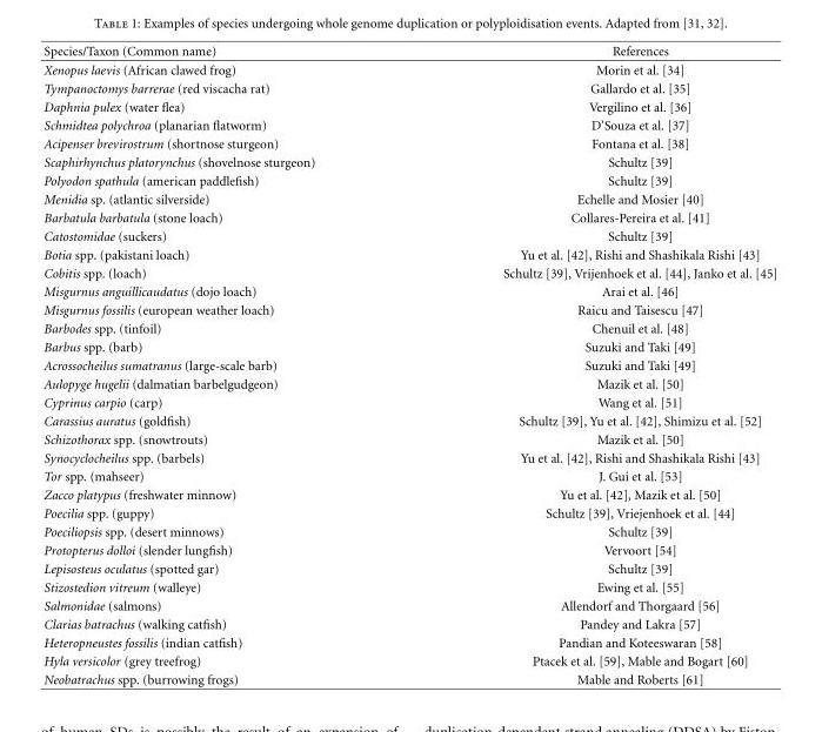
<table><thead><tr><td>Species/Taxon (Common name)</td><td>References</td></tr></thead><tbody><tr><td>Xenopus laevis (African clawed frog)</td><td>Morin et al. [34]</td></tr><tr><td>Tympanoctomys barrerae (red viscacha rat)</td><td>Gallardo et al. [35]</td></tr><tr><td>Daphnia pulex (water flea)</td><td>Vergilino et al. [36]</td></tr><tr><td>Schmidtea polychroa (planarian flatworm)</td><td>D’Souza et al. [37]</td></tr><tr><td>Acipenser brevirostrum (shortnose sturgeon)</td><td>Fontana et al. [38]</td></tr><tr><td>Scaphirhynchus platorynchus (shovelnose sturgeon)</td><td>Schultz [39]</td></tr><tr><td>Polyodon spathula (american paddlefish)</td><td>Schultz [39]</td></tr><tr><td>Menidia sp. (atlantic silverside)</td><td>Echelle and Mosier [40]</td></tr><tr><td>Barbatula barbatula (stone loach)</td><td>Collares-Pereira et al. [41]</td></tr><tr><td>Catostomidae (suckers)</td><td>Schultz [39]</td></tr><tr><td>Botia spp. (pakistani loach)</td><td>Yu et al. [42], Rishi and Shashikala Rishi [43]</td></tr><tr><td>Cobitis spp. (loach)</td><td>Schultz [39], Vrijenhoek et al. [44], Janko et al. [45]</td></tr><tr><td>Misgurnus anguillicaudatus (dojo loach)</td><td>Arai et al. [46]</td></tr><tr><td>Misgurnus fossilis (european weather loach)</td><td>Raicu and Taisescu [47]</td></tr><tr><td>Barbodes spp. (tinfoil)</td><td>Chenuil et al. [48]</td></tr><tr><td>Barbus spp. (barb)</td><td>Suzuki and Taki [49]</td></tr><tr><td>Acrossocheilus sumatranus (large-scale barb)</td><td>Suzuki and Taki [49]</td></tr><tr><td>Aulopyge hugelii (dalmatian barbelgudgeon)</td><td>Mazik et al. [50]</td></tr><tr><td>Cyprinus carpio (carp)</td><td>Wang et al. [51]</td></tr><tr><td>Carassius auratus (goldfish)</td><td>Schultz [39], Yu et al. [42], Shimizu et al. [52]</td></tr><tr><td>Schizothorax spp. (snowtrouts)</td><td>Mazik et al. [50]</td></tr><tr><td>Synocyclocheilus spp. (barbels)</td><td>Yu et al. [42], Rishi and Shashikala Rishi [43]</td></tr><tr><td>Tor spp. (mahseer)</td><td>J. Gui et al. [53]</td></tr><tr><td>Zacco platypus (freshwater minnow)</td><td>Yu et al. [42], Mazik et al. [50]</td></tr><tr><td>Poecilia spp. (guppy)</td><td>Schultz [39], Vriejenhoek et al. [44]</td></tr><tr><td>Poeciliopsis spp. (desert minnows)</td><td>Schultz [39]</td></tr><tr><td>Protopterus dolloi (slender lungfish)</td><td>Vervoort [54]</td></tr><tr><td>Lepisosteus oculatus (spotted gar)</td><td>Schultz [39]</td></tr><tr><td>Stizostedion vitreum (walleye)</td><td>Ewing et al. [55]</td></tr><tr><td>Salmonidae (salmons)</td><td>Allendorf and Thorgaard [56]</td></tr><tr><td>Clarias batrachus (walking catfish)</td><td>Pandey and Lakra [57]</td></tr><tr><td>Heteropneustes fossilis (indian catfish)</td><td>Pandian and Koteeswaran [58]</td></tr><tr><td>Hyla versicolor (grey treefrog)</td><td>Ptacek et al. [59], Mable and Bogart [60]</td></tr><tr><td>Neobatrachus spp. (burrowing frogs)</td><td>Mable and Roberts [61]</td></tr></tbody></table>